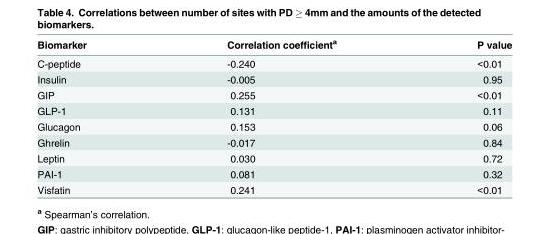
<table><thead><tr><td>Biomarker</td><td>Correlation coefficient<sup>a</sup></td><td>P value</td></tr></thead><tbody><tr><td>C-peptide</td><td>-0.240</td><td>&lt;0.01</td></tr><tr><td>Insulin</td><td>-0.005</td><td>0.95</td></tr><tr><td>GIP</td><td>0.255</td><td>&lt;0.01</td></tr><tr><td>GLP-1</td><td>0.131</td><td>0.11</td></tr><tr><td>Glucagon</td><td>0.153</td><td>0.06</td></tr><tr><td>Ghrelin</td><td>-0.017</td><td>0.84</td></tr><tr><td>Leptin</td><td>0.030</td><td>0.72</td></tr><tr><td>PAI-1</td><td>0.081</td><td>0.32</td></tr><tr><td>Visfatin</td><td>0.241</td><td>&lt;0.01</td></tr></tbody></table>